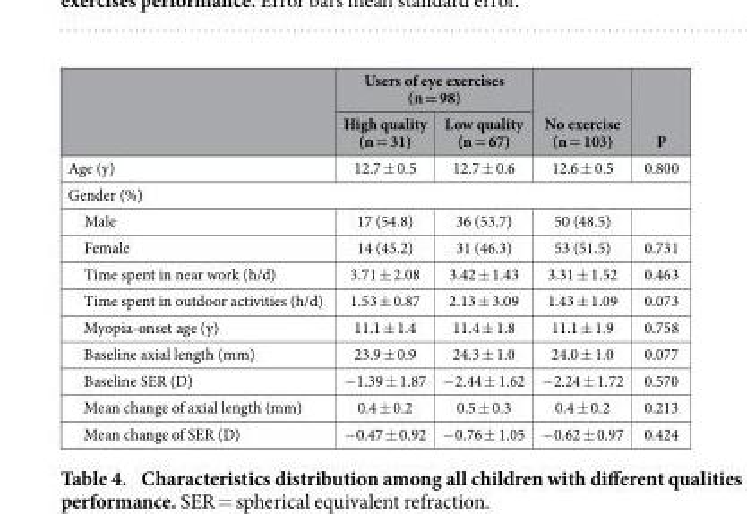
<table><thead><tr><td rowspan="2"></td><td colspan="2">Users of eye exercises (n = 98)</td><td rowspan="2">No exercise (n = 103)</td><td rowspan="2">P</td></tr><tr><td>High quality (n = 31)</td><td>Low quality (n = 67)</td></tr></thead><tbody><tr><td>Age (y)</td><td>12.7 ± 0.5</td><td>12.7 ± 0.6</td><td>12.6 ± 0.5</td><td>0.800</td></tr><tr><td colspan="5">Gender (%)</td></tr><tr><td>Male</td><td>17 (54.8)</td><td>36 (53.7)</td><td>50 (48.5)</td><td></td></tr><tr><td>Female</td><td>14 (45.2)</td><td>31 (46.3)</td><td>53 (51.5)</td><td>0.731</td></tr><tr><td>Time spent in near work (h/d)</td><td>3.71 ± 2.08</td><td>3.42 ± 1.43</td><td>3.31 ± 1.52</td><td>0.463</td></tr><tr><td>Time spent in outdoor activities (h/d)</td><td>1.53 ± 0.87</td><td>2.13 ± 3.09</td><td>1.43 ± 1.09</td><td>0.073</td></tr><tr><td>Myopia-onset age (y)</td><td>11.1 ± 1.4</td><td>11.4 ± 1.8</td><td>11.1 ± 1.9</td><td>0.758</td></tr><tr><td>Baseline axial length (mm)</td><td>23.9 ± 0.9</td><td>24.3 ± 1.0</td><td>24.0 ± 1.0</td><td>0.077</td></tr><tr><td>Baseline SER (D)</td><td>−1.39 ± 1.87</td><td>−2.44 ± 1.62</td><td>−2.24 ± 1.72</td><td>0.570</td></tr><tr><td>Mean change of axial length (mm)</td><td>0.4 ± 0.2</td><td>0.5 ± 0.3</td><td>0.4 ± 0.2</td><td>0.213</td></tr><tr><td>Mean change of SER (D)</td><td>−0.47 ± 0.92</td><td>−0.76 ± 1.05</td><td>−0.62 ± 0.97</td><td>0.424</td></tr></tbody></table>